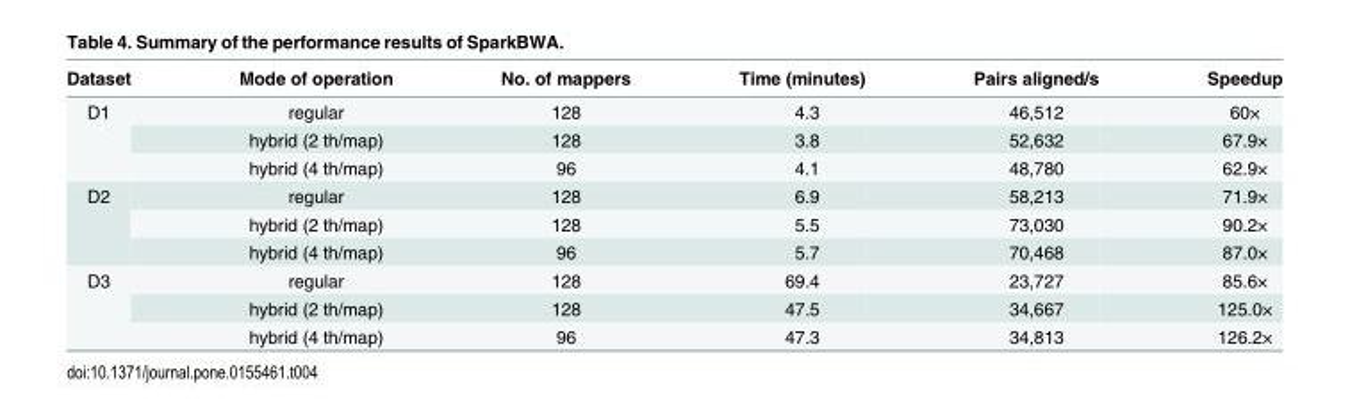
<table><thead><tr><td>Dataset</td><td>Mode of operation</td><td>No. of mappers</td><td>Time (minutes)</td><td>Pairs aligned/s</td><td>Speedup</td></tr></thead><tbody><tr><td rowspan="3">D1</td><td>regular</td><td>128</td><td>4.3</td><td>46,512</td><td>60×</td></tr><tr><td>hybrid (2 th/map)</td><td>128</td><td>3.8</td><td>52,632</td><td>67.9×</td></tr><tr><td>hybrid (4 th/map)</td><td>96</td><td>4.1</td><td>48,780</td><td>62.9×</td></tr><tr><td rowspan="3">D2</td><td>regular</td><td>128</td><td>6.9</td><td>58,213</td><td>71.9×</td></tr><tr><td>hybrid (2 th/map)</td><td>128</td><td>5.5</td><td>73,030</td><td>90.2×</td></tr><tr><td>hybrid (4 th/map)</td><td>96</td><td>5.7</td><td>70,468</td><td>87.0×</td></tr><tr><td rowspan="3">D3</td><td>regular</td><td>128</td><td>69.4</td><td>23,727</td><td>85.6×</td></tr><tr><td>hybrid (2 th/map)</td><td>128</td><td>47.5</td><td>34,667</td><td>125.0×</td></tr><tr><td>hybrid (4 th/map)</td><td>96</td><td>47.3</td><td>34,813</td><td>126.2×</td></tr></tbody></table>